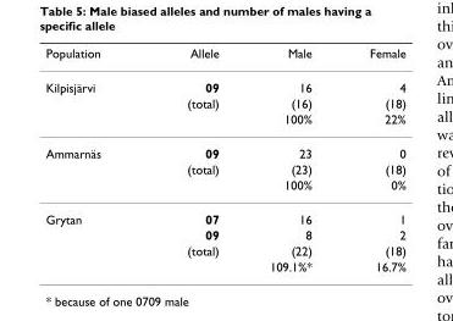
<table><thead><tr><td>Population</td><td>Allele</td><td>Male</td><td>Female</td></tr></thead><tbody><tr><td rowspan="3">Kilpisjärvi</td><td>09</td><td>16</td><td>4</td></tr><tr><td>(total)</td><td>(16)</td><td>(18)</td></tr><tr><td></td><td>100%</td><td>22%</td></tr><tr><td rowspan="3">Ammarnäs</td><td>09</td><td>23</td><td>0</td></tr><tr><td>(total)</td><td>(23)</td><td>(18)</td></tr><tr><td></td><td>100%</td><td>0%</td></tr><tr><td rowspan="4">Grytan</td><td>07</td><td>16</td><td>1</td></tr><tr><td>09</td><td>8</td><td>2</td></tr><tr><td>(total)</td><td>(22)</td><td>(18)</td></tr><tr><td></td><td>109.1%*</td><td>16.7%</td></tr></tbody></table>